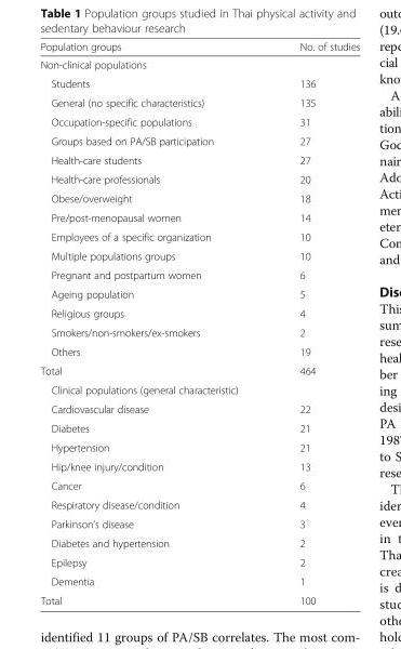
<table><thead><tr><td>Population groups</td><td>No. of studies</td></tr></thead><tbody><tr><td colspan="2">Non-clinical populations</td></tr><tr><td>Students</td><td>136</td></tr><tr><td>General (no specific characteristics)</td><td>135</td></tr><tr><td>Occupation-specific populations</td><td>31</td></tr><tr><td>Groups based on PA/SB participation</td><td>27</td></tr><tr><td>Health-care students</td><td>27</td></tr><tr><td>Health-care professionals</td><td>20</td></tr><tr><td>Obese/overweight</td><td>18</td></tr><tr><td>Pre/post-menopausal women</td><td>14</td></tr><tr><td>Employees of a specific organization</td><td>10</td></tr><tr><td>Multiple populations groups</td><td>10</td></tr><tr><td>Pregnant and postpartum women</td><td>6</td></tr><tr><td>Ageing population</td><td>5</td></tr><tr><td>Religious groups</td><td>4</td></tr><tr><td>Smokers/non-smokers/ex-smokers</td><td>2</td></tr><tr><td>Others</td><td>19</td></tr><tr><td>Total</td><td>464</td></tr><tr><td colspan="2">Clinical populations (general characteristic)</td></tr><tr><td>Cardiovascular disease</td><td>22</td></tr><tr><td>Diabetes</td><td>21</td></tr><tr><td>Hypertension</td><td>21</td></tr><tr><td>Hip/knee injury/condition</td><td>13</td></tr><tr><td>Cancer</td><td>6</td></tr><tr><td>Respiratory disease/condition</td><td>4</td></tr><tr><td>Parkinson’s disease</td><td>3</td></tr><tr><td>Diabetes and hypertension</td><td>2</td></tr><tr><td>Epilepsy</td><td>2</td></tr><tr><td>Dementia</td><td>1</td></tr><tr><td>Total</td><td>100</td></tr></tbody></table>